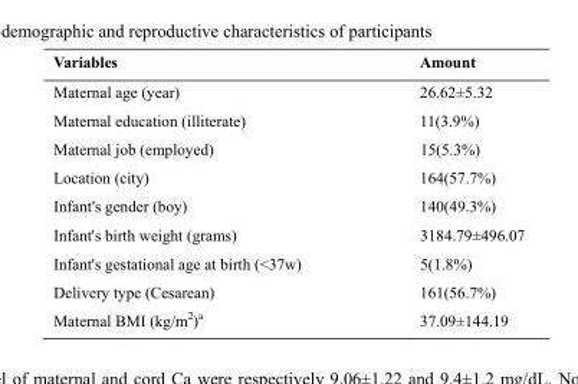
<table><thead><tr><td>Variables</td><td>Amount</td></tr></thead><tbody><tr><td>Maternal age (year)</td><td>26.62±5.32</td></tr><tr><td>Maternal education (illiterate)</td><td>11(3.9%)</td></tr><tr><td>Maternal job (employed)</td><td>15(5.3%)</td></tr><tr><td>Location (city)</td><td>164(57.7%)</td></tr><tr><td>Infant&#x27;s gender (boy)</td><td>140(49.3%)</td></tr><tr><td>Infant&#x27;s birth weight (grams)</td><td>3184.79±496.07</td></tr><tr><td>Infant&#x27;s gestational age at birth (&lt;37w)</td><td>5(1.8%)</td></tr><tr><td>Delivery type (Cesarean)</td><td>161(56.7%)</td></tr><tr><td>Maternal BMI (kg/m<sup>2</sup>)<sup>a</sup></td><td>37.09±144.19</td></tr></tbody></table>